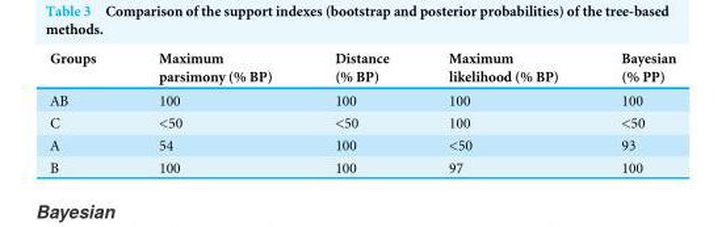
<table><thead><tr><td>Groups</td><td>Maximum parsimony (% BP)</td><td>Distance (% BP)</td><td>Maximum likelihood (% BP)</td><td>Bayesian (% PP)</td></tr></thead><tbody><tr><td>AB</td><td>100</td><td>100</td><td>100</td><td>100</td></tr><tr><td>C</td><td>&lt;50</td><td>&lt;50</td><td>100</td><td>&lt;50</td></tr><tr><td>A</td><td>54</td><td>100</td><td>&lt;50</td><td>93</td></tr><tr><td>B</td><td>100</td><td>100</td><td>97</td><td>100</td></tr></tbody></table>